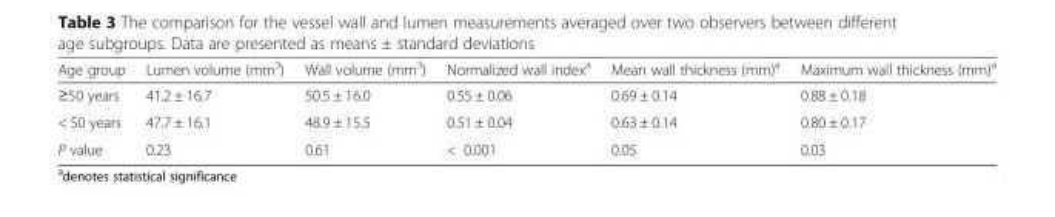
<table><thead><tr><td>Age group</td><td>Lumen volume (mm<sup>3</sup>)</td><td>Wall volume (mm<sup>3</sup>)</td><td>Normalized wall index<sup>a</sup></td><td>Mean wall thickness (mm)<sup>a</sup></td><td>Maximum wall thickness (mm)<sup>a</sup></td></tr></thead><tbody><tr><td>≥50 years</td><td>41.2 ± 16.7</td><td>50.5 ± 16.0</td><td>0.55 ± 0.06</td><td>0.69 ± 0.14</td><td>0.88 ± 0.18</td></tr><tr><td>&lt; 50 years</td><td>47.7 ± 16.1</td><td>48.9 ± 15.5</td><td>0.51 ± 0.04</td><td>0.63 ± 0.14</td><td>0.80 ± 0.17</td></tr><tr><td>P value</td><td>0.23</td><td>0.61</td><td>&lt; 0.001</td><td>0.05</td><td>0.03</td></tr></tbody></table>